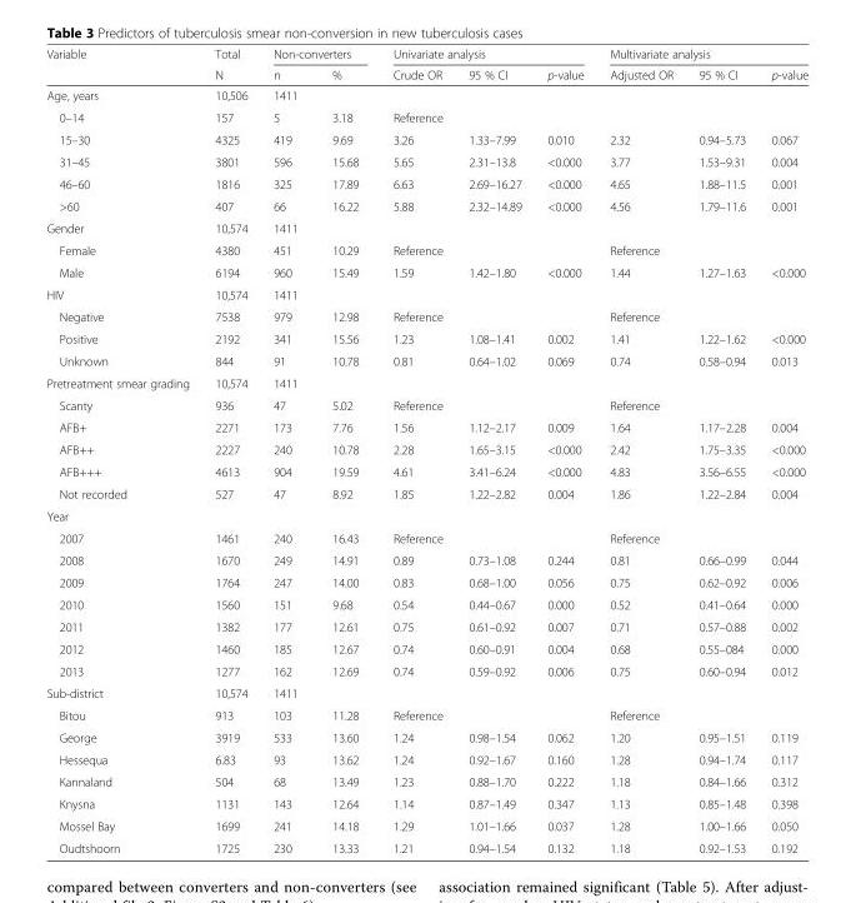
<table><thead><tr><td rowspan="2">Variable</td><td rowspan="2">Total N</td><td colspan="2">Non-converters</td><td colspan="3">Univariate analysis</td><td colspan="3">Multivariate analysis</td></tr><tr><td>n</td><td>%</td><td>Crude OR</td><td>95 % CI</td><td>p-value</td><td>Adjusted OR</td><td>95 % CI</td><td>p-value</td></tr></thead><tbody><tr><td>Age, years</td><td>10,506</td><td>1411</td><td></td><td></td><td></td><td></td><td></td><td></td><td></td></tr><tr><td>0–14</td><td>157</td><td>5</td><td>3.18</td><td>Reference</td><td></td><td></td><td></td><td></td><td></td></tr><tr><td>15–30</td><td>4325</td><td>419</td><td>9.69</td><td>3.26</td><td>1.33–7.99</td><td>0.010</td><td>2.32</td><td>0.94–5.73</td><td>0.067</td></tr><tr><td>31–45</td><td>3801</td><td>596</td><td>15.68</td><td>5.65</td><td>2.31–13.8</td><td>&lt;0.000</td><td>3.77</td><td>1.53–9.31</td><td>0.004</td></tr><tr><td>46–60</td><td>1816</td><td>325</td><td>17.89</td><td>6.63</td><td>2.69–16.27</td><td>&lt;0.000</td><td>4.65</td><td>1.88–11.5</td><td>0.001</td></tr><tr><td>&gt;60</td><td>407</td><td>66</td><td>16.22</td><td>5.88</td><td>2.32–14.89</td><td>&lt;0.000</td><td>4.56</td><td>1.79–11.6</td><td>0.001</td></tr><tr><td>Gender</td><td>10,574</td><td>1411</td><td></td><td></td><td></td><td></td><td></td><td></td><td></td></tr><tr><td>Female</td><td>4380</td><td>451</td><td>10.29</td><td>Reference</td><td></td><td></td><td>Reference</td><td></td><td></td></tr><tr><td>Male</td><td>6194</td><td>960</td><td>15.49</td><td>1.59</td><td>1.42–1.80</td><td>&lt;0.000</td><td>1.44</td><td>1.27–1.63</td><td>&lt;0.000</td></tr><tr><td>HIV</td><td>10,574</td><td>1411</td><td></td><td></td><td></td><td></td><td></td><td></td><td></td></tr><tr><td>Negative</td><td>7538</td><td>979</td><td>12.98</td><td>Reference</td><td></td><td></td><td>Reference</td><td></td><td></td></tr><tr><td>Positive</td><td>2192</td><td>341</td><td>15.56</td><td>1.23</td><td>1.08–1.41</td><td>0.002</td><td>1.41</td><td>1.22–1.62</td><td>&lt;0.000</td></tr><tr><td>Unknown</td><td>844</td><td>91</td><td>10.78</td><td>0.81</td><td>0.64–1.02</td><td>0.069</td><td>0.74</td><td>0.58–0.94</td><td>0.013</td></tr><tr><td>Pretreatment smear grading</td><td>10,574</td><td>1411</td><td></td><td></td><td></td><td></td><td></td><td></td><td></td></tr><tr><td>Scanty</td><td>936</td><td>47</td><td>5.02</td><td>Reference</td><td></td><td></td><td>Reference</td><td></td><td></td></tr><tr><td>AFB+</td><td>2271</td><td>173</td><td>7.76</td><td>1.56</td><td>1.12–2.17</td><td>0.009</td><td>1.64</td><td>1.17–2.28</td><td>0.004</td></tr><tr><td>AFB++</td><td>2227</td><td>240</td><td>10.78</td><td>2.28</td><td>1.65–3.15</td><td>&lt;0.000</td><td>2.42</td><td>1.75–3.35</td><td>&lt;0.000</td></tr><tr><td>AFB+++</td><td>4613</td><td>904</td><td>19.59</td><td>4.61</td><td>3.41–6.24</td><td>&lt;0.000</td><td>4.83</td><td>3.56–6.55</td><td>&lt;0.000</td></tr><tr><td>Not recorded</td><td>527</td><td>47</td><td>8.92</td><td>1.85</td><td>1.22–2.82</td><td>0.004</td><td>1.86</td><td>1.22–2.84</td><td>0.004</td></tr><tr><td colspan="10">Year</td></tr><tr><td>2007</td><td>1461</td><td>240</td><td>16.43</td><td>Reference</td><td></td><td></td><td>Reference</td><td></td><td></td></tr><tr><td>2008</td><td>1670</td><td>249</td><td>14.91</td><td>0.89</td><td>0.73–1.08</td><td>0.244</td><td>0.81</td><td>0.66–0.99</td><td>0.044</td></tr><tr><td>2009</td><td>1764</td><td>247</td><td>14.00</td><td>0.83</td><td>0.68–1.00</td><td>0.056</td><td>0.75</td><td>0.62–0.92</td><td>0.006</td></tr><tr><td>2010</td><td>1560</td><td>151</td><td>9.68</td><td>0.54</td><td>0.44–0.67</td><td>0.000</td><td>0.52</td><td>0.41–0.64</td><td>0.000</td></tr><tr><td>2011</td><td>1382</td><td>177</td><td>12.61</td><td>0.75</td><td>0.61–0.92</td><td>0.007</td><td>0.71</td><td>0.57–0.88</td><td>0.002</td></tr><tr><td>2012</td><td>1460</td><td>185</td><td>12.67</td><td>0.74</td><td>0.60–0.91</td><td>0.004</td><td>0.68</td><td>0.55–084</td><td>0.000</td></tr><tr><td>2013</td><td>1277</td><td>162</td><td>12.69</td><td>0.74</td><td>0.59–0.92</td><td>0.006</td><td>0.75</td><td>0.60–0.94</td><td>0.012</td></tr><tr><td>Sub-district</td><td>10,574</td><td>1411</td><td></td><td></td><td></td><td></td><td></td><td></td><td></td></tr><tr><td>Bitou</td><td>913</td><td>103</td><td>11.28</td><td>Reference</td><td></td><td></td><td>Reference</td><td></td><td></td></tr><tr><td>George</td><td>3919</td><td>533</td><td>13.60</td><td>1.24</td><td>0.98–1.54</td><td>0.062</td><td>1.20</td><td>0.95–1.51</td><td>0.119</td></tr><tr><td>Hessequa</td><td>6.83</td><td>93</td><td>13.62</td><td>1.24</td><td>0.92–1.67</td><td>0.160</td><td>1.28</td><td>0.94–1.74</td><td>0.117</td></tr><tr><td>Kannaland</td><td>504</td><td>68</td><td>13.49</td><td>1.23</td><td>0.88–1.70</td><td>0.222</td><td>1.18</td><td>0.84–1.66</td><td>0.312</td></tr><tr><td>Knysna</td><td>1131</td><td>143</td><td>12.64</td><td>1.14</td><td>0.87–1.49</td><td>0.347</td><td>1.13</td><td>0.85–1.48</td><td>0.398</td></tr><tr><td>Mossel Bay</td><td>1699</td><td>241</td><td>14.18</td><td>1.29</td><td>1.01–1.66</td><td>0.037</td><td>1.28</td><td>1.00–1.66</td><td>0.050</td></tr><tr><td>Oudtshoorn</td><td>1725</td><td>230</td><td>13.33</td><td>1.21</td><td>0.94–1.54</td><td>0.132</td><td>1.18</td><td>0.92–1.53</td><td>0.192</td></tr></tbody></table>